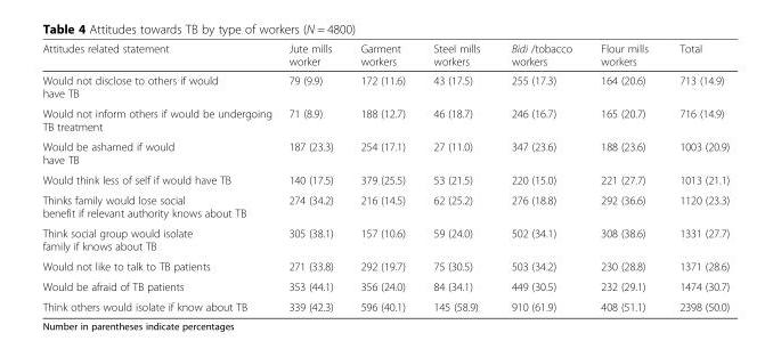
<table><thead><tr><td>Attitudes related statement</td><td>Jute mills worker</td><td>Garment workers</td><td>Steel mills workers</td><td>Bidi /tobacco workers</td><td>Flour mills workers</td><td>Total</td></tr></thead><tbody><tr><td>Would not disclose to others if would have TB</td><td>79 (9.9)</td><td>172 (11.6)</td><td>43 (17.5)</td><td>255 (17.3)</td><td>164 (20.6)</td><td>713 (14.9)</td></tr><tr><td>Would not inform others if would be undergoing TB treatment</td><td>71 (8.9)</td><td>188 (12.7)</td><td>46 (18.7)</td><td>246 (16.7)</td><td>165 (20.7)</td><td>716 (14.9)</td></tr><tr><td>Would be ashamed if would have TB</td><td>187 (23.3)</td><td>254 (17.1)</td><td>27 (11.0)</td><td>347 (23.6)</td><td>188 (23.6)</td><td>1003 (20.9)</td></tr><tr><td>Would think less of self if would have TB</td><td>140 (17.5)</td><td>379 (25.5)</td><td>53 (21.5)</td><td>220 (15.0)</td><td>221 (27.7)</td><td>1013 (21.1)</td></tr><tr><td>Thinks family would lose social benefit if relevant authority knows about TB</td><td>274 (34.2)</td><td>216 (14.5)</td><td>62 (25.2)</td><td>276 (18.8)</td><td>292 (36.6)</td><td>1120 (23.3)</td></tr><tr><td>Think social group would isolate family if knows about TB</td><td>305 (38.1)</td><td>157 (10.6)</td><td>59 (24.0)</td><td>502 (34.1)</td><td>308 (38.6)</td><td>1331 (27.7)</td></tr><tr><td>Would not like to talk to TB patients</td><td>271 (33.8)</td><td>292 (19.7)</td><td>75 (30.5)</td><td>503 (34.2)</td><td>230 (28.8)</td><td>1371 (28.6)</td></tr><tr><td>Would be afraid of TB patients</td><td>353 (44.1)</td><td>356 (24.0)</td><td>84 (34.1)</td><td>449 (30.5)</td><td>232 (29.1)</td><td>1474 (30.7)</td></tr><tr><td>Think others would isolate if know about TB</td><td>339 (42.3)</td><td>596 (40.1)</td><td>145 (58.9)</td><td>910 (61.9)</td><td>408 (51.1)</td><td>2398 (50.0)</td></tr></tbody></table>